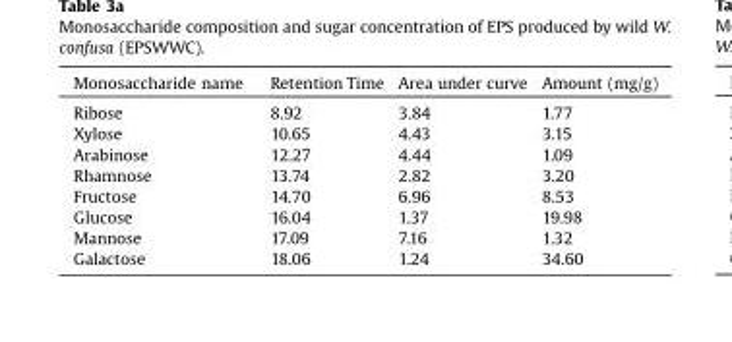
<table><thead><tr><td>Monosaccharide name</td><td>Retention Time</td><td>Area under curve</td><td>Amount (mg/g)</td></tr></thead><tbody><tr><td>Ribose</td><td>8.92</td><td>3.84</td><td>1.77</td></tr><tr><td>Xylose</td><td>10.65</td><td>4.43</td><td>3.15</td></tr><tr><td>Arabinose</td><td>12.27</td><td>4.44</td><td>1.09</td></tr><tr><td>Rhamnose</td><td>13.74</td><td>2.82</td><td>3.20</td></tr><tr><td>Fructose</td><td>14.70</td><td>6.96</td><td>8.53</td></tr><tr><td>Glucose</td><td>16.04</td><td>1.37</td><td>19.98</td></tr><tr><td>Mannose</td><td>17.09</td><td>7.16</td><td>1.32</td></tr><tr><td>Galactose</td><td>18.06</td><td>1.24</td><td>34.60</td></tr></tbody></table>